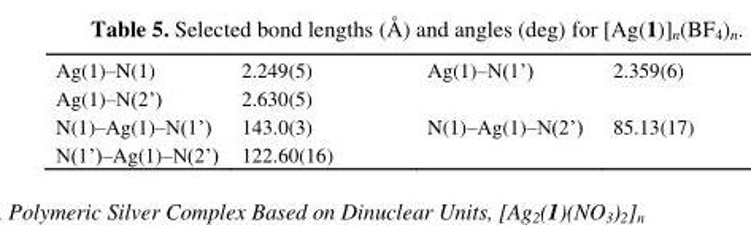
<table><tbody><tr><td>Ag(1)–N(1)</td><td>2.249(5)</td><td>Ag(1)–N(1’)</td><td>2.359(6)</td></tr><tr><td>Ag(1)–N(2’)</td><td>2.630(5)</td><td></td><td></td></tr><tr><td>N(1)–Ag(1)–N(1’)</td><td>143.0(3)</td><td>N(1)–Ag(1)–N(2’)</td><td>85.13(17)</td></tr><tr><td>N(1’)–Ag(1)–N(2’)</td><td>122.60(16)</td><td></td><td></td></tr></tbody></table>